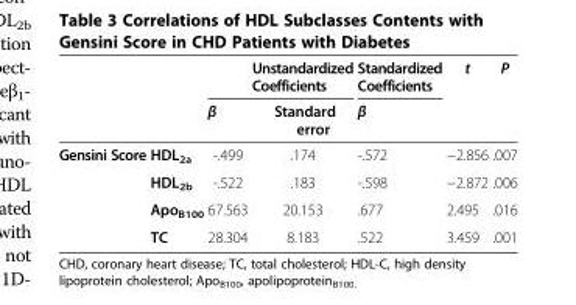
<table><thead><tr><td rowspan="2"></td><td rowspan="2"></td><td rowspan="2">β</td><td rowspan="2">Unstandardized Coefficients Standard error</td><td rowspan="2">Standardized Coefficients β</td><td rowspan="2">t</td><td rowspan="2">P</td></tr><tr></tr></thead><tbody><tr><td rowspan="4">Gensini Score</td><td>HDL<sub>2a</sub></td><td>-.499</td><td>.174</td><td>-.572</td><td>−2.856</td><td>.007</td></tr><tr><td>HDL<sub>2b</sub></td><td>-.522</td><td>.183</td><td>-.598</td><td>−2.872</td><td>.006</td></tr><tr><td>Apo<sub>B100</sub></td><td>67.563</td><td>20.153</td><td>.677</td><td>2.495</td><td>.016</td></tr><tr><td>TC</td><td>28.304</td><td>8.183</td><td>.522</td><td>3.459</td><td>.001</td></tr></tbody></table>